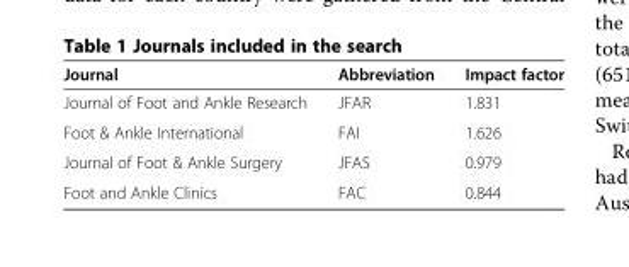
<table><thead><tr><td>Journal</td><td>Abbreviation</td><td>Impact factor</td></tr></thead><tbody><tr><td>Journal of Foot and Ankle Research</td><td>JFAR</td><td>1.831</td></tr><tr><td>Foot &amp; Ankle International</td><td>FAI</td><td>1.626</td></tr><tr><td>Journal of Foot &amp; Ankle Surgery</td><td>JFAS</td><td>0.979</td></tr><tr><td>Foot and Ankle Clinics</td><td>FAC</td><td>0.844</td></tr></tbody></table>